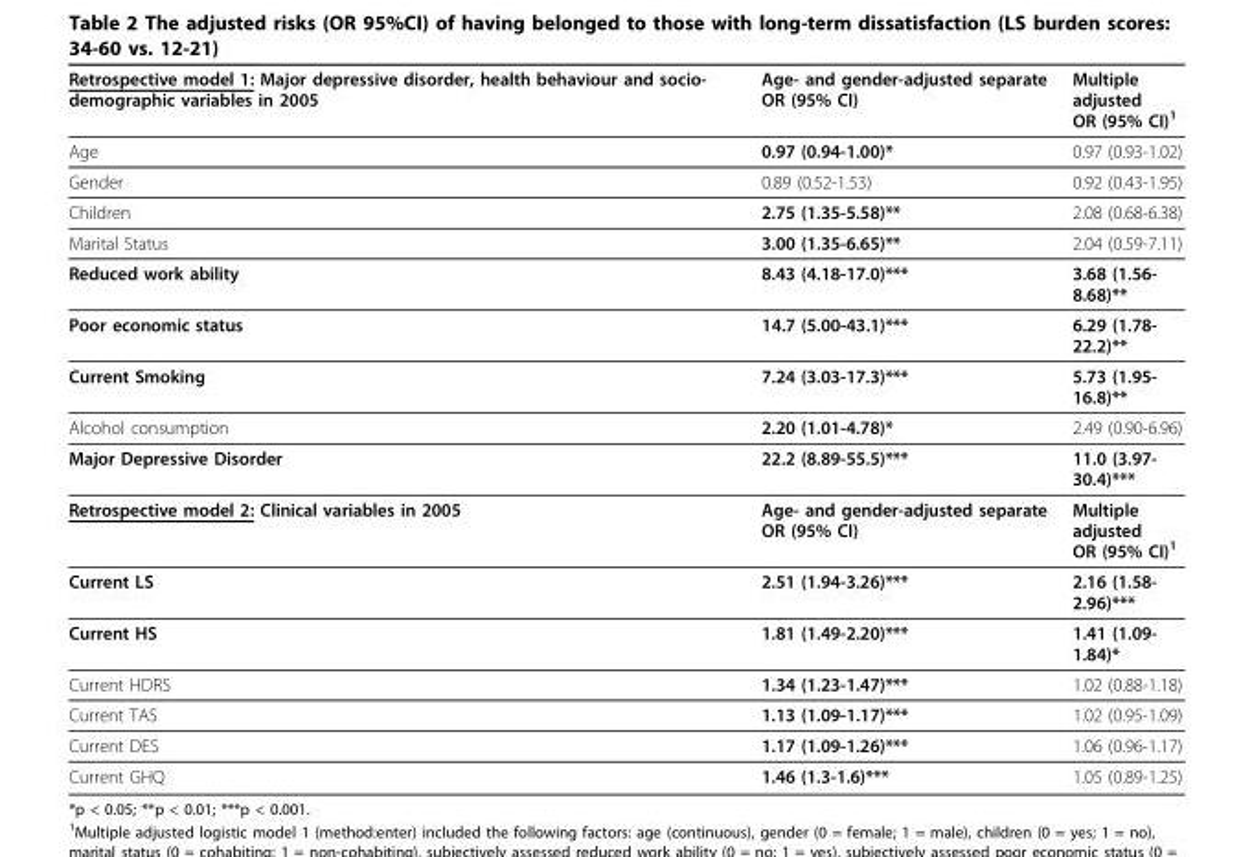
<table><thead><tr><td>Retrospective model 1: Major depressive disorder, health behaviour and socio- demographic variables in 2005</td><td>Age- and gender-adjusted separate OR (95% CI)</td><td>Multiple adjusted OR (95% CI)<sup>1</sup></td></tr></thead><tbody><tr><td>Age</td><td>0.97 (0.94-1.00)*</td><td>0.97 (0.93-1.02)</td></tr><tr><td>Gender</td><td>0.89 (0.52-1.53)</td><td>0.92 (0.43-1.95)</td></tr><tr><td>Children</td><td>2.75 (1.35-5.58)**</td><td>2.08 (0.68-6.38)</td></tr><tr><td>Marital Status</td><td>3.00 (1.35-6.65)**</td><td>2.04 (0.59-7.11)</td></tr><tr><td>Reduced work ability</td><td>8.43 (4.18-17.0)***</td><td>3.68 (1.56- 8.68)**</td></tr><tr><td>Poor economic status</td><td>14.7 (5.00-43.1)***</td><td>6.29 (1.78- 22.2)**</td></tr><tr><td>Current Smoking</td><td>7.24 (3.03-17.3)***</td><td>5.73 (1.95- 16.8)**</td></tr><tr><td>Alcohol consumption</td><td>2.20 (1.01-4.78)*</td><td>2.49 (0.90-6.96)</td></tr><tr><td>Major Depressive Disorder</td><td>22.2 (8.89-55.5)***</td><td>11.0 (3.97- 30.4)***</td></tr><tr><td>Retrospective model 2: Clinical variables in 2005</td><td>Age- and gender-adjusted separate OR (95% CI)</td><td>Multiple adjusted OR (95% CI)<sup>1</sup></td></tr><tr><td>Current LS</td><td>2.51 (1.94-3.26)***</td><td>2.16 (1.58- 2.96)***</td></tr><tr><td>Current HS</td><td>1.81 (1.49-2.20)***</td><td>1.41 (1.09- 1.84)*</td></tr><tr><td>Current HDRS</td><td>1.34 (1.23-1.47)***</td><td>1.02 (0.88-1.18)</td></tr><tr><td>Current TAS</td><td>1.13 (1.09-1.17)***</td><td>1.02 (0.95-1.09)</td></tr><tr><td>Current DES</td><td>1.17 (1.09-1.26)***</td><td>1.06 (0.96-1.17)</td></tr><tr><td>Current GHQ</td><td>1.46 (1.3-1.6)***</td><td>1.05 (0.89-1.25)</td></tr></tbody></table>